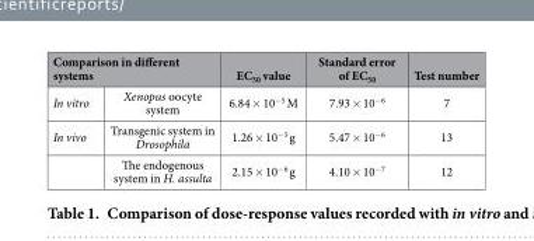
<table><thead><tr><td colspan="2">Comparison in different systems</td><td rowspan="2">EC<sub>50</sub> value 6.84 × 10<sup>−5</sup> M</td><td rowspan="2">Standard error of EC<sub>50</sub> 7.93 × 10<sup>−6</sup></td><td rowspan="2">Test number 7</td></tr><tr><td>In vitro</td><td>Xenopus oocyte system</td></tr></thead><tbody><tr><td rowspan="2">In vivo</td><td>Transgenic system in Drosophila</td><td>1.26 × 10<sup>−5</sup> g</td><td>5.47 × 10<sup>−6</sup></td><td>13</td></tr><tr><td>The endogenous system in H. assulta</td><td>2.15 × 10<sup>−6</sup> g</td><td>4.10 × 10<sup>−7</sup></td><td>12</td></tr></tbody></table>